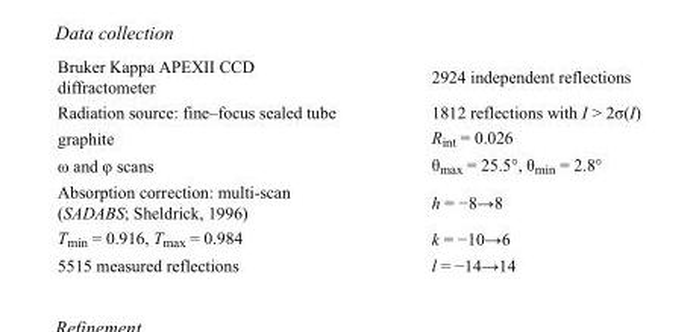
<table><tbody><tr><td>Bruker Kappa APEXII CCD diffractometer</td><td>2924 independent reflections</td></tr><tr><td>Radiation source: fine–focus sealed tube</td><td>1812 reflections with I &gt; 2σ(I)</td></tr><tr><td>graphite</td><td>R<sub>int</sub> = 0.026</td></tr><tr><td>ω and φ scans</td><td>θ<sub>max</sub> = 25.5°, θ<sub>min</sub> = 2.8°</td></tr><tr><td>Absorption correction: multi-scan (SADABS; Sheldrick, 1996)</td><td>h = −8→8</td></tr><tr><td>T<sub>min</sub> = 0.916, T<sub>max</sub> = 0.984</td><td>k = −10→6</td></tr><tr><td>5515 measured reflections</td><td>l = −14→14</td></tr></tbody></table>